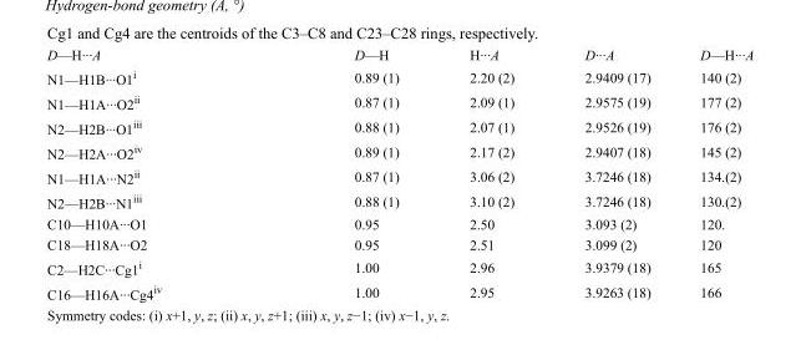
<table><tbody><tr><td>D—H···A</td><td>D—H</td><td>H···A</td><td>D···A</td><td>D—H···A</td></tr><tr><td>N1—H1B···O1<sup>i</sup></td><td>0.89 (1)</td><td>2.20 (2)</td><td>2.9409 (17)</td><td>140 (2)</td></tr><tr><td>N1—H1A···O2<sup>ii</sup></td><td>0.87 (1)</td><td>2.09 (1)</td><td>2.9575 (19)</td><td>177 (2)</td></tr><tr><td>N2—H2B···O1<sup>iii</sup></td><td>0.88 (1)</td><td>2.07 (1)</td><td>2.9526 (19)</td><td>176 (2)</td></tr><tr><td>N2—H2A···O2<sup>iv</sup></td><td>0.89 (1)</td><td>2.17 (2)</td><td>2.9407 (18)</td><td>145 (2)</td></tr><tr><td>N1—H1A···N2<sup>ii</sup></td><td>0.87 (1)</td><td>3.06 (2)</td><td>3.7246 (18)</td><td>134.(2)</td></tr><tr><td>N2—H2B···N1<sup>iii</sup></td><td>0.88 (1)</td><td>3.10 (2)</td><td>3.7246 (18)</td><td>130.(2)</td></tr><tr><td>C10—H10A···O1</td><td>0.95</td><td>2.50</td><td>3.093 (2)</td><td>120.</td></tr><tr><td>C18—H18A···O2</td><td>0.95</td><td>2.51</td><td>3.099 (2)</td><td>120</td></tr><tr><td>C2—H2C···Cg1<sup>i</sup></td><td>1.00</td><td>2.96</td><td>3.9379 (18)</td><td>165</td></tr><tr><td>C16—H16A···Cg4<sup>iv</sup></td><td>1.00</td><td>2.95</td><td>3.9263 (18)</td><td>166</td></tr></tbody></table>